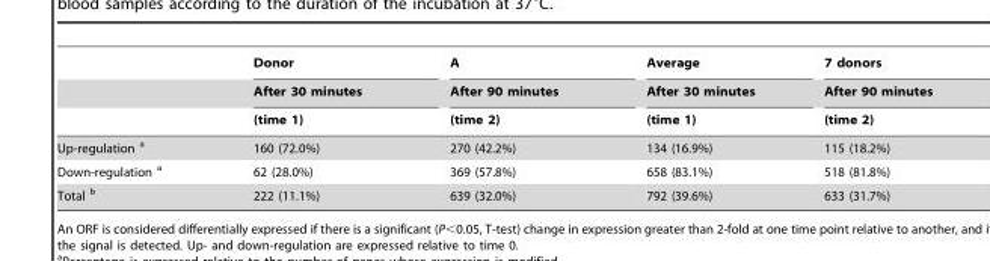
<table><thead><tr><td rowspan="3"></td><td rowspan="3">Donor After 30 minutes (time 1)</td><td rowspan="3">A After 90 minutes (time 2)</td><td rowspan="3">Average After 30 minutes (time 1)</td><td rowspan="3">7 donors After 90 minutes (time 2)</td></tr><tr></tr><tr></tr></thead><tbody><tr><td>Up-regulation a</td><td>160 (72.0%)</td><td>270 (42.2%)</td><td>134 (16.9%)</td><td>115 (18.2%)</td></tr><tr><td>Down-regulation a</td><td>62 (28.0%)</td><td>369 (57.8%)</td><td>658 (83.1%)</td><td>518 (81.8%)</td></tr><tr><td>Total b</td><td>222 (11.1%)</td><td>639 (32.0%)</td><td>792 (39.6%)</td><td>633 (31.7%)</td></tr></tbody></table>